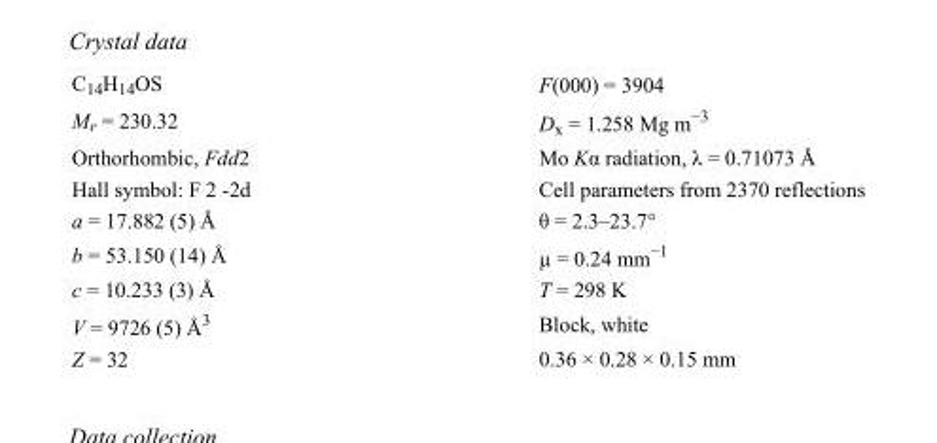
<table><tbody><tr><td>C<sub>14</sub>H<sub>14</sub>OS</td><td>F(000) = 3904</td></tr><tr><td>M<sub>r</sub> = 230.32</td><td>D<sub>x</sub> = 1.258 Mg m<sup>−3</sup></td></tr><tr><td>Orthorhombic, Fdd2</td><td>Mo Kα radiation, λ = 0.71073 Å</td></tr><tr><td>Hall symbol: F 2 -2d</td><td>Cell parameters from 2370 reflections</td></tr><tr><td>a = 17.882 (5) Å</td><td>θ = 2.3–23.7°</td></tr><tr><td>b = 53.150 (14) Å</td><td>µ = 0.24 mm<sup>−1</sup></td></tr><tr><td>c = 10.233 (3) Å</td><td>T = 298 K</td></tr><tr><td>V = 9726 (5) Å<sup>3</sup></td><td>Block, white</td></tr><tr><td>Z = 32</td><td>0.36 × 0.28 × 0.15 mm</td></tr></tbody></table>